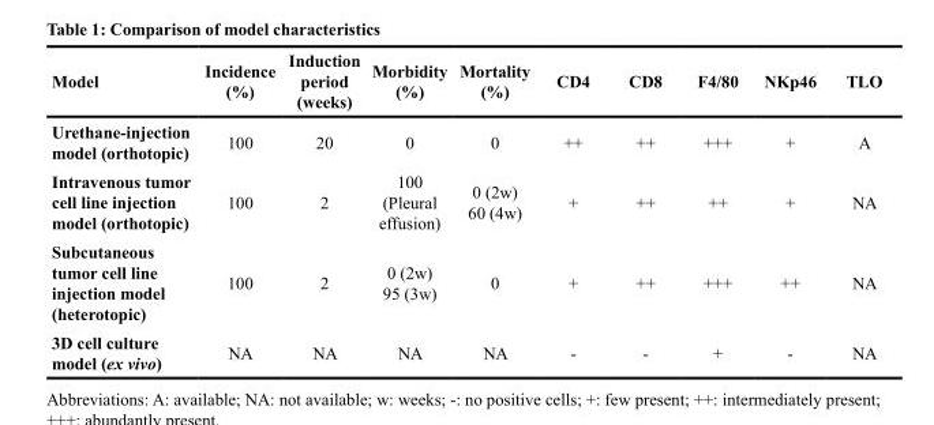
<table><thead><tr><td>Model</td><td>Incidence (%)</td><td>Induction period (weeks)</td><td>Morbidity (%)</td><td>Mortality (%)</td><td>CD4</td><td>CD8</td><td>F4/80</td><td>NKp46</td><td>TLO</td></tr></thead><tbody><tr><td>Urethane-injection model (orthotopic)</td><td>100</td><td>20</td><td>0</td><td>0</td><td>++</td><td>++</td><td>+++</td><td>+</td><td>A</td></tr><tr><td>Intravenous tumor cell line injection model (orthotopic)</td><td>100</td><td>2</td><td>100 (Pleural effusion)</td><td>0 (2w) 60 (4w)</td><td>+</td><td>++</td><td>++</td><td>+</td><td>NA</td></tr><tr><td>Subcutaneous tumor cell line injection model (heterotopic)</td><td>100</td><td>2</td><td>0 (2w) 95 (3w)</td><td>0</td><td>+</td><td>++</td><td>+++</td><td>++</td><td>NA</td></tr><tr><td>3D cell culture model (ex vivo)</td><td>NA</td><td>NA</td><td>NA</td><td>NA</td><td>-</td><td>-</td><td>+</td><td>-</td><td>NA</td></tr></tbody></table>